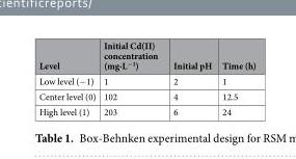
<table><thead><tr><td>Level</td><td>Initial Cd(II) concentration (mg∙L<sup>−1</sup>)</td><td>Initial pH</td><td>Time (h)</td></tr></thead><tbody><tr><td>Low level (−1)</td><td>1</td><td>2</td><td>1</td></tr><tr><td>Center level (0)</td><td>102</td><td>4</td><td>12.5</td></tr><tr><td>High level (1)</td><td>203</td><td>6</td><td>24</td></tr></tbody></table>